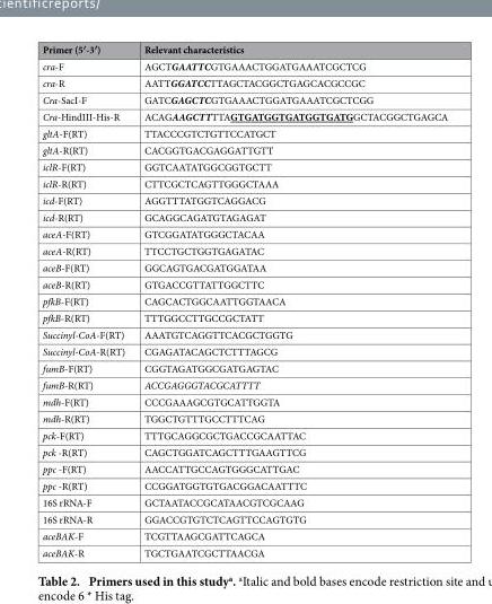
<table><thead><tr><td>Primer (5′-3′)</td><td>Relevant characteristics</td></tr></thead><tbody><tr><td>cra-F</td><td>AGCTGAATTCGTGAAACTGGATGAAATCGCTCG</td></tr><tr><td>cra-R</td><td>AATTGGATCCTTAGCTACGGCTGAGCACGCCGC</td></tr><tr><td>Cra-SacI-F</td><td>GATCGAGCTCGTGAAACTGGATGAAATCGCTCGG</td></tr><tr><td>Cra-HindIII-His-R</td><td>ACAGAAGCTTTTAGTGATGGTGATGGTGATGGCTACGGCTGAGCA</td></tr><tr><td>gltA-F(RT)</td><td>TTACCCGTCTGTTCCATGCT</td></tr><tr><td>gltA-R(RT)</td><td>CACGGTGACGAGGATTGTT</td></tr><tr><td>iclR-F(RT)</td><td>GGTCAATATGGCGGTGCTT</td></tr><tr><td>iclR-R(RT)</td><td>CTTCGCTCAGTTGGGCTAAA</td></tr><tr><td>icd-F(RT)</td><td>AGGTTTATGGTCAGGACG</td></tr><tr><td>icd-R(RT)</td><td>GCAGGCAGATGTAGAGAT</td></tr><tr><td>aceA-F(RT)</td><td>GTCGGATATGGGCTACAA</td></tr><tr><td>aceA-R(RT)</td><td>TTCCTGCTGGTGAGATAC</td></tr><tr><td>aceB-F(RT)</td><td>GGCAGTGACGATGGATAA</td></tr><tr><td>aceB-R(RT)</td><td>GTGACCGTTATTGGCTTC</td></tr><tr><td>pfkB-F(RT)</td><td>CAGCACTGGCAATTGGTAACA</td></tr><tr><td>pfkB-R(RT)</td><td>TTTGGCCTTGCCGCTATT</td></tr><tr><td>Succinyl-CoA-F(RT)</td><td>AAATGTCAGGTTCACGCTGGTG</td></tr><tr><td>Succinyl-CoA-R(RT)</td><td>CGAGATACAGCTCTTTAGCG</td></tr><tr><td>fumB-F(RT)</td><td>CGGTAGATGGCGATGAGTAC</td></tr><tr><td>fumB-R(RT)</td><td>ACCGAGGGTACGCATTTT</td></tr><tr><td>mdh-F(RT)</td><td>CCCGAAAGCGTGCATTGGTA</td></tr><tr><td>mdh-R(RT)</td><td>TGGCTGTTTGCCTTTCAG</td></tr><tr><td>pck-F(RT)</td><td>TTTGCAGGCGCTGACCGCAATTAC</td></tr><tr><td>pck -R(RT)</td><td>CAGCTGGATCAGCTTTGAAGTTCG</td></tr><tr><td>ppc -F(RT)</td><td>AACCATTGCCAGTGGGCATTGAC</td></tr><tr><td>ppc -R(RT)</td><td>CCGGATGGTGTGACGGACAATTTC</td></tr><tr><td>16S rRNA-F</td><td>GCTAATACCGCATAACGTCGCAAG</td></tr><tr><td>16S rRNA-R</td><td>GGACCGTGTCTCAGTTCCAGTGTG</td></tr><tr><td>aceBAK-F</td><td>TCGTTAAGCGATTCAGCA</td></tr><tr><td>aceBAK-R</td><td>TGCTGAATCGCTTAACGA</td></tr></tbody></table>